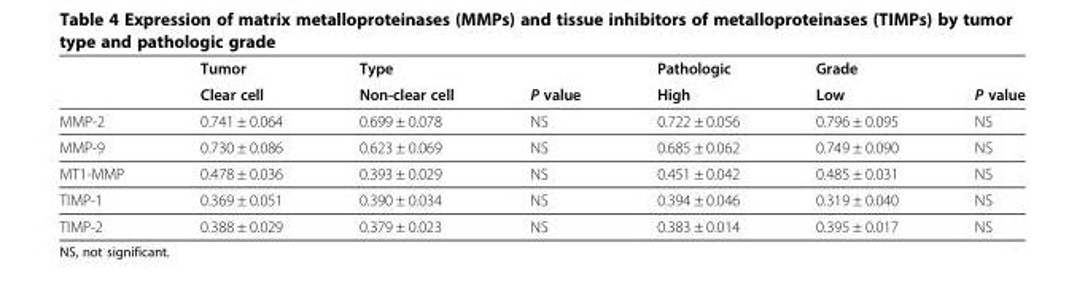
<table><thead><tr><td rowspan="2"></td><td rowspan="2">Tumor Clear cell</td><td rowspan="2">Type Non-clear cell</td><td rowspan="2">P value</td><td rowspan="2">Pathologic High</td><td rowspan="2">Grade Low</td><td rowspan="2">P value</td></tr><tr></tr></thead><tbody><tr><td>MMP-2</td><td>0.741 ± 0.064</td><td>0.699 ± 0.078</td><td>NS</td><td>0.722 ± 0.056</td><td>0.796 ± 0.095</td><td>NS</td></tr><tr><td>MMP-9</td><td>0.730 ± 0.086</td><td>0.623 ± 0.069</td><td>NS</td><td>0.685 ± 0.062</td><td>0.749 ± 0.090</td><td>NS</td></tr><tr><td>MT1-MMP</td><td>0.478 ± 0.036</td><td>0.393 ± 0.029</td><td>NS</td><td>0.451 ± 0.042</td><td>0.485 ± 0.031</td><td>NS</td></tr><tr><td>TIMP-1</td><td>0.369 ± 0.051</td><td>0.390 ± 0.034</td><td>NS</td><td>0.394 ± 0.046</td><td>0.319 ± 0.040</td><td>NS</td></tr><tr><td>TIMP-2</td><td>0.388 ± 0.029</td><td>0.379 ± 0.023</td><td>NS</td><td>0.383 ± 0.014</td><td>0.395 ± 0.017</td><td>NS</td></tr></tbody></table>